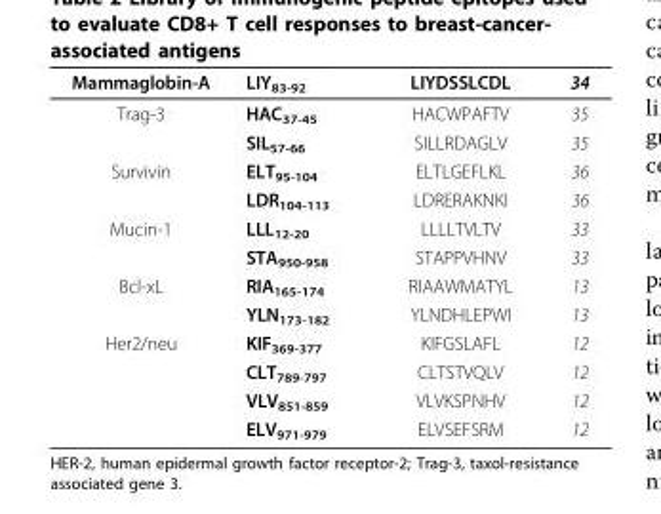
<table><thead><tr><td>Mammaglobin-A</td><td>LIY<sub>83-92</sub></td><td>LIYDSSLCDL</td><td>34</td></tr></thead><tbody><tr><td rowspan="2">Trag-3</td><td>HAC<sub>37-45</sub></td><td>HACWPAFTV</td><td>35</td></tr><tr><td>SIL<sub>57-66</sub></td><td>SILLRDAGLV</td><td>35</td></tr><tr><td rowspan="2">Survivin</td><td>ELT<sub>95-104</sub></td><td>ELTLGEFLKL</td><td>36</td></tr><tr><td>LDR<sub>104-113</sub></td><td>LDRERAKNKI</td><td>36</td></tr><tr><td rowspan="2">Mucin-1</td><td>LLL<sub>12-20</sub></td><td>LLLLTVLTV</td><td>33</td></tr><tr><td>STA<sub>950-958</sub></td><td>STAPPVHNV</td><td>33</td></tr><tr><td rowspan="2">Bcl-xL</td><td>RIA<sub>165-174</sub></td><td>RIAAWMATYL</td><td>13</td></tr><tr><td>YLN<sub>173-182</sub></td><td>YLNDHLEPWI</td><td>13</td></tr><tr><td rowspan="4">Her2/neu</td><td>KIF<sub>369-377</sub></td><td>KIFGSLAFL</td><td>12</td></tr><tr><td>CLT<sub>789-797</sub></td><td>CLTSTVQLV</td><td>12</td></tr><tr><td>VLV<sub>851-859</sub></td><td>VLVKSPNHV</td><td>12</td></tr><tr><td>ELV<sub>971-979</sub></td><td>ELVSEFSRM</td><td>12</td></tr></tbody></table>